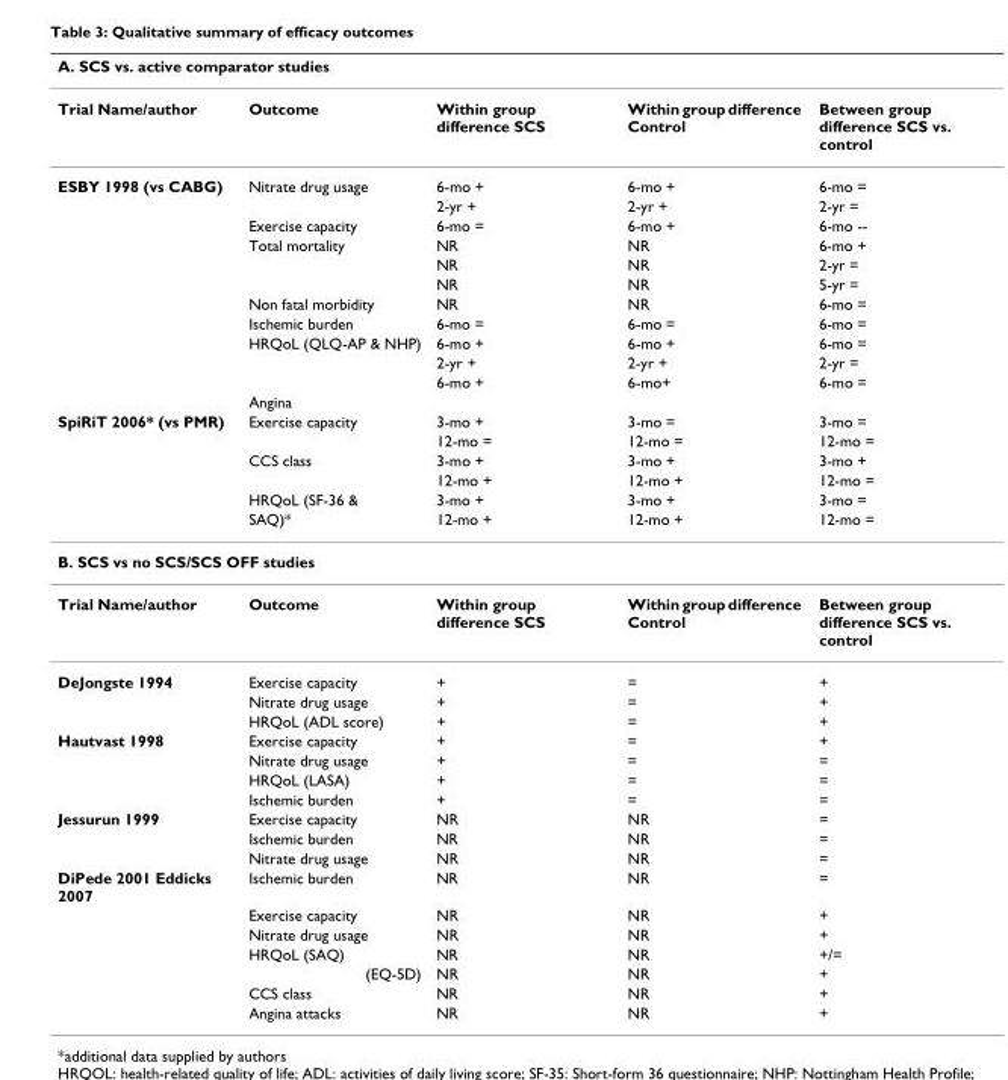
<table><thead><tr><td colspan="5">A. SCS vs. active comparator studies</td></tr><tr><td>Trial Name/author</td><td>Outcome</td><td>Within group difference SCS</td><td>Within group difference Control</td><td>Between group difference SCS vs. control</td></tr></thead><tbody><tr><td rowspan="12">ESBY 1998 (vs CABG)</td><td>Nitrate drug usage</td><td>6-mo +</td><td>6-mo +</td><td>6-mo =</td></tr><tr><td></td><td>2-yr +</td><td>2-yr +</td><td>2-yr =</td></tr><tr><td>Exercise capacity</td><td>6-mo =</td><td>6-mo +</td><td>6-mo --</td></tr><tr><td>Total mortality</td><td>NR</td><td>NR</td><td>6-mo +</td></tr><tr><td></td><td>NR</td><td>NR</td><td>2-yr =</td></tr><tr><td></td><td>NR</td><td>NR</td><td>5-yr =</td></tr><tr><td>Non fatal morbidity</td><td>NR</td><td>NR</td><td>6-mo =</td></tr><tr><td>Ischemic burden</td><td>6-mo =</td><td>6-mo =</td><td>6-mo =</td></tr><tr><td>HRQoL (QLQ-AP &amp; NHP)</td><td>6-mo +</td><td>6-mo +</td><td>6-mo =</td></tr><tr><td></td><td>2-yr +</td><td>2-yr +</td><td>2-yr =</td></tr><tr><td></td><td>6-mo +</td><td>6-mo+</td><td>6-mo =</td></tr><tr><td>Angina</td><td></td><td></td><td></td></tr><tr><td rowspan="6">SpiRiT 2006* (vs PMR)</td><td>Exercise capacity</td><td>3-mo +</td><td>3-mo =</td><td>3-mo =</td></tr><tr><td></td><td>12-mo =</td><td>12-mo =</td><td>12-mo =</td></tr><tr><td>CCS class</td><td>3-mo +</td><td>3-mo +</td><td>3-mo +</td></tr><tr><td></td><td>12-mo +</td><td>12-mo +</td><td>12-mo =</td></tr><tr><td>HRQoL (SF-36 &amp;</td><td>3-mo +</td><td>3-mo +</td><td>3-mo =</td></tr><tr><td>SAQ)*</td><td>12-mo +</td><td>12-mo +</td><td>12-mo =</td></tr><tr><td colspan="5">B. SCS vs no SCS/SCS OFF studies</td></tr><tr><td>Trial Name/author</td><td>Outcome</td><td>Within group difference SCS</td><td>Within group difference Control</td><td>Between group difference SCS vs. control</td></tr><tr><td rowspan="3">DeJongste 1994</td><td>Exercise capacity</td><td>+</td><td>=</td><td>+</td></tr><tr><td>Nitrate drug usage</td><td>+</td><td>=</td><td>+</td></tr><tr><td>HRQoL (ADL score)</td><td>+</td><td>=</td><td>+</td></tr><tr><td rowspan="4">Hautvast 1998</td><td>Exercise capacity</td><td>+</td><td>=</td><td>+</td></tr><tr><td>Nitrate drug usage</td><td>+</td><td>=</td><td>=</td></tr><tr><td>HRQoL (LASA)</td><td>+</td><td>=</td><td>=</td></tr><tr><td>Ischemic burden</td><td>+</td><td>=</td><td>=</td></tr><tr><td rowspan="3">Jessurun 1999</td><td>Exercise capacity</td><td>NR</td><td>NR</td><td>=</td></tr><tr><td>Ischemic burden</td><td>NR</td><td>NR</td><td>=</td></tr><tr><td>Nitrate drug usage</td><td>NR</td><td>NR</td><td>=</td></tr><tr><td rowspan="7">DiPede 2001 Eddicks 2007</td><td>Ischemic burden</td><td>NR</td><td>NR</td><td>=</td></tr><tr><td>Exercise capacity</td><td>NR</td><td>NR</td><td>+</td></tr><tr><td>Nitrate drug usage</td><td>NR</td><td>NR</td><td>+</td></tr><tr><td>HRQoL (SAQ)</td><td>NR</td><td>NR</td><td>+/=</td></tr><tr><td>(EQ-5D)</td><td>NR</td><td>NR</td><td>+</td></tr><tr><td>CCS class</td><td>NR</td><td>NR</td><td>+</td></tr><tr><td>Angina attacks</td><td>NR</td><td>NR</td><td>+</td></tr></tbody></table>